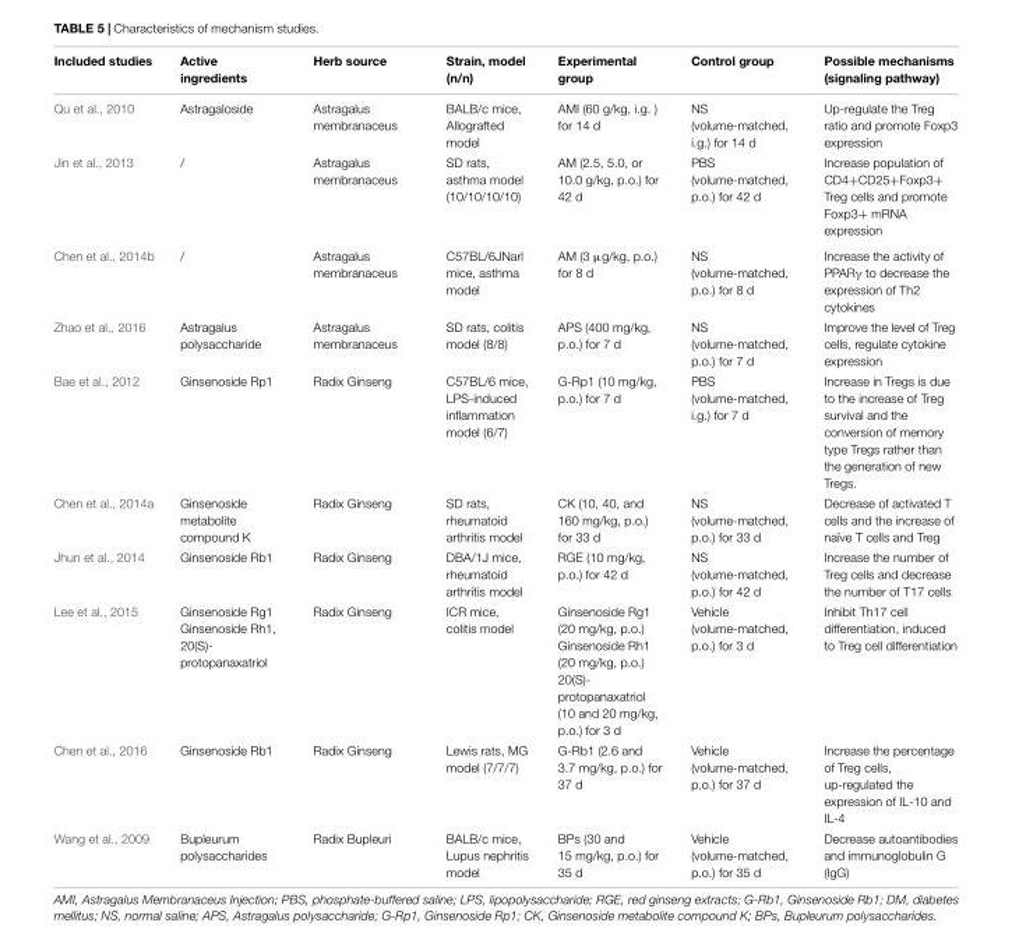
<table><thead><tr><td>Included studies</td><td>Active ingredients</td><td>Herb source</td><td>Strain, model (n/n)</td><td>Experimental group</td><td>Control group</td><td>Possible mechanisms (signaling pathway)</td></tr></thead><tbody><tr><td>Qu et al., 2010</td><td>Astragaloside</td><td>Astragalus membranaceus</td><td>BALB/c mice, Allografted model</td><td>AMI (60 g/kg, i.g. ) for 14 d</td><td>NS (volume-matched, i.g.) for 14 d</td><td>Up-regulate the Treg ratio and promote Foxp3 expression</td></tr><tr><td>Jin et al., 2013</td><td>/</td><td>Astragalus membranaceus</td><td>SD rats, asthma model (10/10/10/10)</td><td>AM (2.5, 5.0, or 10.0 g/kg, p.o.) for 42 d</td><td>PBS (volume-matched, p.o.) for 42 d</td><td>Increase population of CD4+CD25+Foxp3+ Treg cells and promote Foxp3+ mRNA expression</td></tr><tr><td>Chen et al., 2014b</td><td>/</td><td>Astragalus membranaceus</td><td>C57BL/6JNarl mice, asthma model</td><td>AM (3 µg/kg, p.o.) for 8 d</td><td>NS (volume-matched, p.o.) for 8 d</td><td>Increase the activity of PPARγ to decrease the expression of Th2 cytokines</td></tr><tr><td>Zhao et al., 2016</td><td>Astragalus polysaccharide</td><td>Astragalus membranaceus</td><td>SD rats, colitis model (8/8)</td><td>APS (400 mg/kg, p.o.) for 7 d</td><td>NS (volume-matched, p.o.) for 7 d</td><td>Improve the level of Treg cells, regulate cytokine expression</td></tr><tr><td>Bae et al., 2012</td><td>Ginsenoside Rp1</td><td>Radix Ginseng</td><td>C57BL/6 mice, LPS-induced inflammation model (6/7)</td><td>G-Rp1 (10 mg/kg, p.o.) for 7 d</td><td>PBS (volume-matched, i.g.) for 7 d</td><td>Increase in Tregs is due to the increase of Treg survival and the conversion of memory type Tregs rather than the generation of new Tregs.</td></tr><tr><td>Chen et al., 2014a</td><td>Ginsenoside metabolite compound K</td><td>Radix Ginseng</td><td>SD rats, rheumatoid arthritis model</td><td>CK (10, 40, and 160 mg/kg, p.o.) for 33 d</td><td>NS (volume-matched, p.o.) for 33 d</td><td>Decrease of activated T cells and the increase of naïve T cells and Treg</td></tr><tr><td>Jhun et al., 2014</td><td>Ginsenoside Rb1</td><td>Radix Ginseng</td><td>DBA/1J mice, rheumatoid arthritis model</td><td>RGE (10 mg/kg, p.o.) for 42 d</td><td>NS (volume-matched, p.o.) for 42 d</td><td>Increase the number of Treg cells and decrease the number of T17 cells</td></tr><tr><td>Lee et al., 2015</td><td>Ginsenoside Rg1 Ginsenoside Rh1, 20(S)- protopanaxatriol</td><td>Radix Ginseng</td><td>ICR mice, colitis model</td><td>Ginsenoside Rg1 (20 mg/kg, p.o.) Ginsenoside Rh1 (20 mg/kg, p.o.) 20(S)- protopanaxatriol (10 and 20 mg/kg, p.o.) for 3 d</td><td>Vehicle (volume-matched, p.o.) for 3 d</td><td>Inhibit Th17 cell differentiation, induced to Treg cell differentiation</td></tr><tr><td>Chen et al., 2016</td><td>Ginsenoside Rb1</td><td>Radix Ginseng</td><td>Lewis rats, MG model (7/7/7)</td><td>G-Rb1 (2.6 and 3.7 mg/kg, p.o.) for 37 d</td><td>Vehicle (volume-matched, p.o.) for 37 d</td><td>Increase the percentage of Treg cells, up-regulated the expression of IL-10 and IL-4</td></tr><tr><td>Wang et al., 2009</td><td>Bupleurum polysaccharides</td><td>Radix Bupleuri</td><td>BALB/c mice, Lupus nephritis model</td><td>BPs (30 and 15 mg/kg, p.o.) for 35 d</td><td>Vehicle (volume-matched, p.o.) for 35 d</td><td>Decrease autoantibodies and immunoglobulin G (IgG)</td></tr></tbody></table>